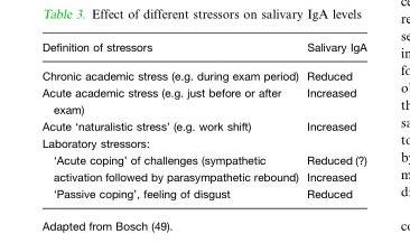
<table><thead><tr><td>Definition of stressors</td><td>Salivary IgA</td></tr></thead><tbody><tr><td>Chronic academic stress (e.g. during exam period)</td><td>Reduced</td></tr><tr><td>Acute academic stress (e.g. just before or after exam)</td><td>Increased</td></tr><tr><td>Acute ‘naturalistic stress’ (e.g. work shift)</td><td>Increased</td></tr><tr><td colspan="2">Laboratory stressors:</td></tr><tr><td>‘Acute coping’ of challenges (sympathetic activation followed by parasympathetic rebound)</td><td>Reduced (?) Increased</td></tr><tr><td>‘Passive coping’, feeling of disgust</td><td>Reduced</td></tr></tbody></table>